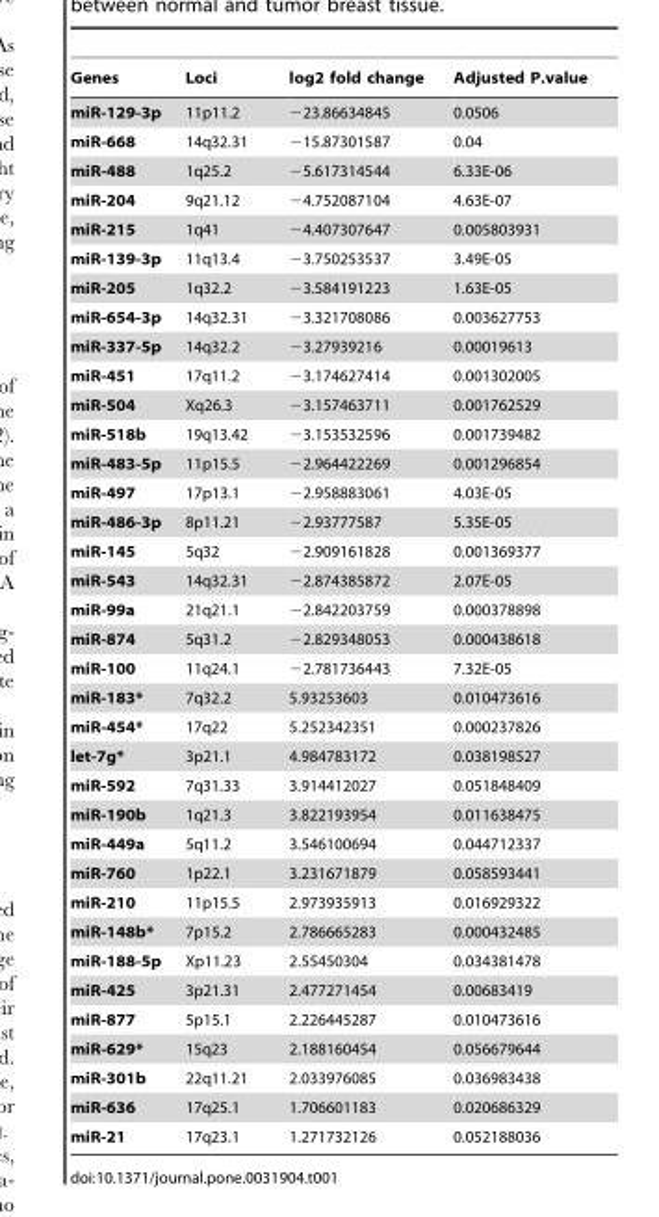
<table><thead><tr><td>Genes</td><td>Loci</td><td>log2 fold change</td><td>Adjusted P.value</td></tr></thead><tbody><tr><td>miR-129-3p</td><td>11p11.2</td><td>−23.86634845</td><td>0.0506</td></tr><tr><td>miR-668</td><td>14q32.31</td><td>−15.87301587</td><td>0.04</td></tr><tr><td>miR-488</td><td>1q25.2</td><td>−5.617314544</td><td>6.33E-06</td></tr><tr><td>miR-204</td><td>9q21.12</td><td>−4.752087104</td><td>4.63E-07</td></tr><tr><td>miR-215</td><td>1q41</td><td>−4.407307647</td><td>0.005803931</td></tr><tr><td>miR-139-3p</td><td>11q13.4</td><td>−3.750253537</td><td>3.49E-05</td></tr><tr><td>miR-205</td><td>1q32.2</td><td>−3.584191223</td><td>1.63E-05</td></tr><tr><td>miR-654-3p</td><td>14q32.31</td><td>−3.321708086</td><td>0.003627753</td></tr><tr><td>miR-337-5p</td><td>14q32.2</td><td>−3.27939216</td><td>0.00019613</td></tr><tr><td>miR-451</td><td>17q11.2</td><td>−3.174627414</td><td>0.001302005</td></tr><tr><td>miR-504</td><td>Xq26.3</td><td>−3.157463711</td><td>0.001762529</td></tr><tr><td>miR-518b</td><td>19q13.42</td><td>−3.153532596</td><td>0.001739482</td></tr><tr><td>miR-483-5p</td><td>11p15.5</td><td>−2.964422269</td><td>0.001296854</td></tr><tr><td>miR-497</td><td>17p13.1</td><td>−2.958883061</td><td>4.03E-05</td></tr><tr><td>miR-486-3p</td><td>8p11.21</td><td>−2.93777587</td><td>5.35E-05</td></tr><tr><td>miR-145</td><td>5q32</td><td>−2.909161828</td><td>0.001369377</td></tr><tr><td>miR-543</td><td>14q32.31</td><td>−2.874385872</td><td>2.07E-05</td></tr><tr><td>miR-99a</td><td>21q21.1</td><td>−2.842203759</td><td>0.000378898</td></tr><tr><td>miR-874</td><td>5q31.2</td><td>−2.829348053</td><td>0.000438618</td></tr><tr><td>miR-100</td><td>11q24.1</td><td>−2.781736443</td><td>7.32E-05</td></tr><tr><td>miR-183*</td><td>7q32.2</td><td>5.93253603</td><td>0.010473616</td></tr><tr><td>miR-454*</td><td>17q22</td><td>5.252342351</td><td>0.000237826</td></tr><tr><td>let-7g*</td><td>3p21.1</td><td>4.984783172</td><td>0.038198527</td></tr><tr><td>miR-592</td><td>7q31.33</td><td>3.914412027</td><td>0.051848409</td></tr><tr><td>miR-190b</td><td>1q21.3</td><td>3.822193954</td><td>0.011638475</td></tr><tr><td>miR-449a</td><td>5q11.2</td><td>3.546100694</td><td>0.044712337</td></tr><tr><td>miR-760</td><td>1p22.1</td><td>3.231671879</td><td>0.058593441</td></tr><tr><td>miR-210</td><td>11p15.5</td><td>2.973935913</td><td>0.016929322</td></tr><tr><td>miR-148b*</td><td>7p15.2</td><td>2.786665283</td><td>0.000432485</td></tr><tr><td>miR-188-5p</td><td>Xp11.23</td><td>2.55450304</td><td>0.034381478</td></tr><tr><td>miR-425</td><td>3p21.31</td><td>2.477271454</td><td>0.00683419</td></tr><tr><td>miR-877</td><td>5p15.1</td><td>2.226445287</td><td>0.010473616</td></tr><tr><td>miR-629*</td><td>15q23</td><td>2.188160454</td><td>0.056679644</td></tr><tr><td>miR-301b</td><td>22q11.21</td><td>2.033976085</td><td>0.036983438</td></tr><tr><td>miR-636</td><td>17q25.1</td><td>1.706601183</td><td>0.020686329</td></tr><tr><td>miR-21</td><td>17q23.1</td><td>1.271732126</td><td>0.052188036</td></tr></tbody></table>